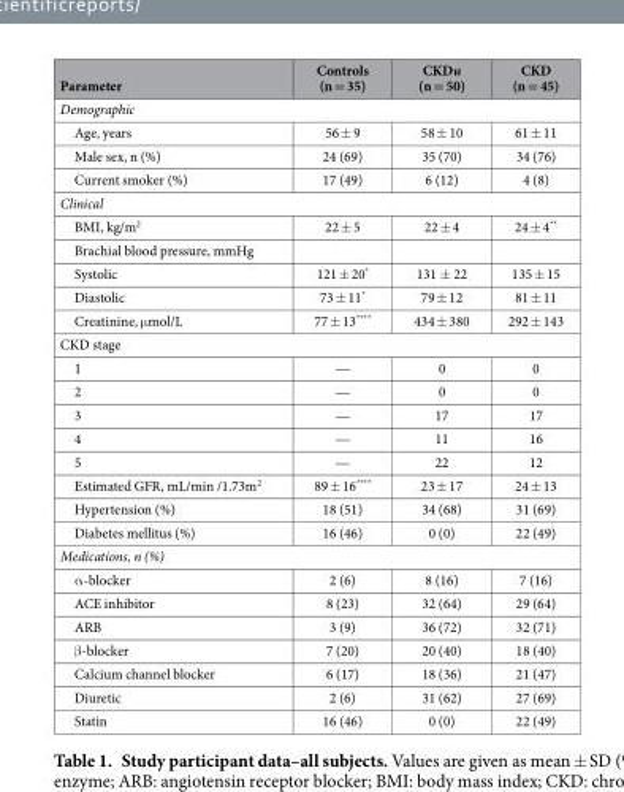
<table><thead><tr><td>Parameter</td><td>Controls (n = 35)</td><td>CKDu (n = 50)</td><td>CKD (n = 45)</td></tr></thead><tbody><tr><td colspan="4">Demographic</td></tr><tr><td>Age, years</td><td>56 ± 9</td><td>58 ± 10</td><td>61 ± 11</td></tr><tr><td>Male sex, n (%)</td><td>24 (69)</td><td>35 (70)</td><td>34 (76)</td></tr><tr><td>Current smoker (%)</td><td>17 (49)</td><td>6 (12)</td><td>4 (8)</td></tr><tr><td colspan="4">Clinical</td></tr><tr><td>BMI, kg/m<sup>2</sup></td><td>22 ± 5</td><td>22 ± 4</td><td>24 ± 4**</td></tr><tr><td colspan="4">Brachial blood pressure, mmHg</td></tr><tr><td>Systolic</td><td>121 ± 20*</td><td>131 ± 22</td><td>135 ± 15</td></tr><tr><td>Diastolic</td><td>73 ± 11*</td><td>79 ± 12</td><td>81 ± 11</td></tr><tr><td>Creatinine, μ mol/L</td><td>77 ± 13****</td><td>434 ± 380</td><td>292 ± 143</td></tr><tr><td colspan="4">CKD stage</td></tr><tr><td>1</td><td>—</td><td>0</td><td>0</td></tr><tr><td>2</td><td>—</td><td>0</td><td>0</td></tr><tr><td>3</td><td>—</td><td>17</td><td>17</td></tr><tr><td>4</td><td>—</td><td>11</td><td>16</td></tr><tr><td>5</td><td>—</td><td>22</td><td>12</td></tr><tr><td>Estimated GFR, mL/min /1.73m<sup>2</sup></td><td>89 ± 16****</td><td>23 ± 17</td><td>24 ± 13</td></tr><tr><td>Hypertension (%)</td><td>18 (51)</td><td>34 (68)</td><td>31 (69)</td></tr><tr><td>Diabetes mellitus (%)</td><td>16 (46)</td><td>0 (0)</td><td>22 (49)</td></tr><tr><td colspan="4">Medications, n (%)</td></tr><tr><td>α -blocker</td><td>2 (6)</td><td>8 (16)</td><td>7 (16)</td></tr><tr><td>ACE inhibitor</td><td>8 (23)</td><td>32 (64)</td><td>29 (64)</td></tr><tr><td>ARB</td><td>3 (9)</td><td>36 (72)</td><td>32 (71)</td></tr><tr><td>β -blocker</td><td>7 (20)</td><td>20 (40)</td><td>18 (40)</td></tr><tr><td>Calcium channel blocker</td><td>6 (17)</td><td>18 (36)</td><td>21 (47)</td></tr><tr><td>Diuretic</td><td>2 (6)</td><td>31 (62)</td><td>27 (69)</td></tr><tr><td>Statin</td><td>16 (46)</td><td>0 (0)</td><td>22 (49)</td></tr></tbody></table>